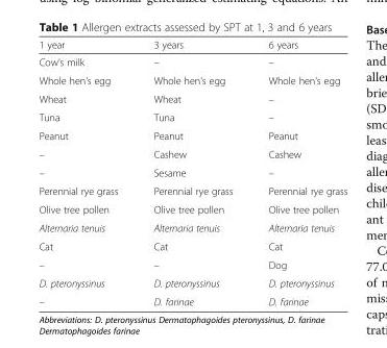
<table><thead><tr><td>1 year</td><td>3 years</td><td>6 years</td></tr></thead><tbody><tr><td>Cow’s milk</td><td>–</td><td>–</td></tr><tr><td>Whole hen’s egg</td><td>Whole hen’s egg</td><td>Whole hen’s egg</td></tr><tr><td>Wheat</td><td>Wheat</td><td>–</td></tr><tr><td>Tuna</td><td>Tuna</td><td>–</td></tr><tr><td>Peanut</td><td>Peanut</td><td>Peanut</td></tr><tr><td>–</td><td>Cashew</td><td>Cashew</td></tr><tr><td>–</td><td>Sesame</td><td>–</td></tr><tr><td>Perennial rye grass</td><td>Perennial rye grass</td><td>Perennial rye grass</td></tr><tr><td>Olive tree pollen</td><td>Olive tree pollen</td><td>Olive tree pollen</td></tr><tr><td>Alternaria tenuis</td><td>Alternaria tenuis</td><td>Alternaria tenuis</td></tr><tr><td>Cat</td><td>Cat</td><td>Cat</td></tr><tr><td>–</td><td>–</td><td>Dog</td></tr><tr><td>D. pteronyssinus</td><td>D. pteronyssinus</td><td>D. pteronyssinus</td></tr><tr><td>–</td><td>D. farinae</td><td>D. farinae</td></tr></tbody></table>